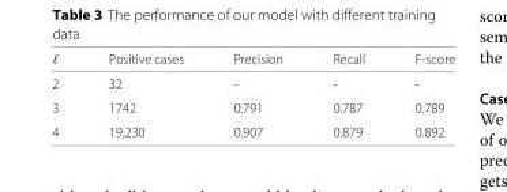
<table><thead><tr><td>ℓ</td><td>Positive cases</td><td>Precision</td><td>Recall</td><td>F-score</td></tr></thead><tbody><tr><td>2</td><td>32</td><td>-</td><td>-</td><td>-</td></tr><tr><td>3</td><td>1742</td><td>0.791</td><td>0.787</td><td>0.789</td></tr><tr><td>4</td><td>19,230</td><td>0.907</td><td>0.879</td><td>0.892</td></tr></tbody></table>